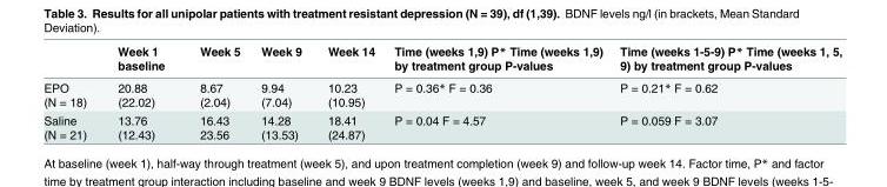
<table><thead><tr><td></td><td>Week 1 baseline</td><td>Week 5</td><td>Week 9</td><td>Week 14</td><td>Time (weeks 1,9) P* Time (weeks 1,9) by treatment group P-values</td><td>Time (weeks 1-5-9) P* Time (weeks 1, 5, 9) by treatment group P-values</td></tr></thead><tbody><tr><td>EPO (N = 18)</td><td>20.88 (22.02)</td><td>8.67 (2.04)</td><td>9.94 (7.04)</td><td>10.23 (10.95)</td><td>P = 0.36* F = 0.36</td><td>P = 0.21* F = 0.62</td></tr><tr><td>Saline (N = 21)</td><td>13.76 (12.43)</td><td>16.43 23.56</td><td>14.28 (13.53)</td><td>18.41 (24.87)</td><td>P = 0.04 F = 4.57</td><td>P = 0.059 F = 3.07</td></tr></tbody></table>